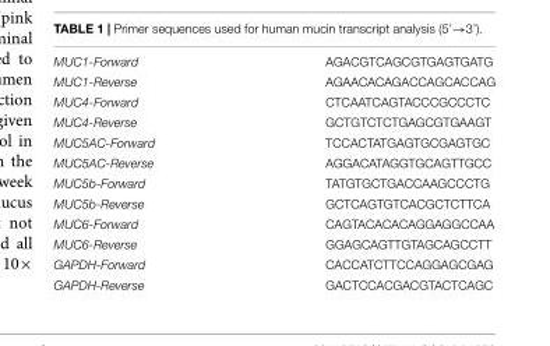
<table><tbody><tr><td>MUC1-Forward</td><td>AGACGTCAGCGTGAGTGATG</td></tr><tr><td>MUC1-Reverse</td><td>AGAACACAGACCAGCACCAG</td></tr><tr><td>MUC4-Forward</td><td>CTCAATCAGTACCCGCCCTC</td></tr><tr><td>MUC4-Reverse</td><td>GCTGTCTCTGAGCGTGAAGT</td></tr><tr><td>MUC5AC-Forward</td><td>TCCACTATGAGTGCGAGTGC</td></tr><tr><td>MUC5AC-Reverse</td><td>AGGACATAGGTGCAGTTGCC</td></tr><tr><td>MUC5b-Forward</td><td>TATGTGCTGACCAAGCCCTG</td></tr><tr><td>MUC5b-Reverse</td><td>GCTCAGTGTCACGCTCTTCA</td></tr><tr><td>MUC6-Forward</td><td>CAGTACACACAGGAGGCCAA</td></tr><tr><td>MUC6-Reverse</td><td>GGAGCAGTTGTAGCAGCCTT</td></tr><tr><td>GAPDH-Forward</td><td>CACCATCTTCCAGGAGCGAG</td></tr><tr><td>GAPDH-Reverse</td><td>GACTCCACGACGTACTCAGC</td></tr></tbody></table>